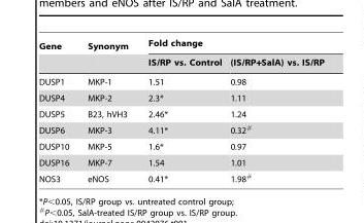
<table><thead><tr><td rowspan="2">Gene</td><td rowspan="2">Synonym</td><td colspan="2">Fold change</td></tr><tr><td>IS/RP vs. Control</td><td>(IS/RP+SalA) vs. IS/RP</td></tr></thead><tbody><tr><td>DUSP1</td><td>MKP-1</td><td>1.51</td><td>0.98</td></tr><tr><td>DUSP4</td><td>MKP-2</td><td>2.3*</td><td>1.11</td></tr><tr><td>DUSP5</td><td>B23, hVH3</td><td>2.46*</td><td>1.24</td></tr><tr><td>DUSP6</td><td>MKP-3</td><td>4.11*</td><td>0.32#</td></tr><tr><td>DUSP10</td><td>MKP-5</td><td>1.6*</td><td>0.97</td></tr><tr><td>DUSP16</td><td>MKP-7</td><td>1.54</td><td>1.01</td></tr><tr><td>NOS3</td><td>eNOS</td><td>0.41*</td><td>1.98#</td></tr></tbody></table>